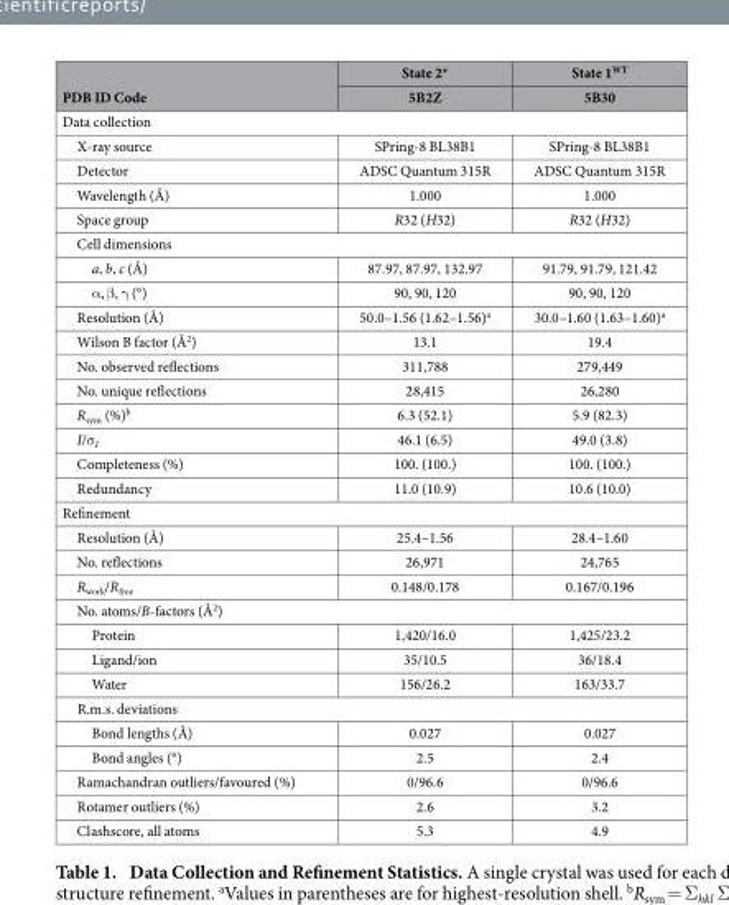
<table><thead><tr><td rowspan="2">PDB ID Code</td><td rowspan="2">State 2* 5B2Z</td><td rowspan="2">State 1<sup>WT</sup> 5B30</td></tr><tr></tr></thead><tbody><tr><td colspan="3">Data collection</td></tr><tr><td>X-ray source</td><td>SPring-8 BL38B1</td><td>SPring-8 BL38B1</td></tr><tr><td>Detector</td><td>ADSC Quantum 315R</td><td>ADSC Quantum 315R</td></tr><tr><td>Wavelength (Å)</td><td>1.000</td><td>1.000</td></tr><tr><td>Space group</td><td>R32 (H32)</td><td>R32 (H32)</td></tr><tr><td colspan="3">Cell dimensions</td></tr><tr><td>a, b, c (Å)</td><td>87.97, 87.97, 132.97</td><td>91.79, 91.79, 121.42</td></tr><tr><td>α , β , γ (°)</td><td>90, 90, 120</td><td>90, 90, 120</td></tr><tr><td>Resolution (Å)</td><td>50.0–1.56 (1.62–1.56)<sup>a</sup></td><td>30.0–1.60 (1.63–1.60)<sup>a</sup></td></tr><tr><td>Wilson B factor (Å<sup>2</sup>)</td><td>13.1</td><td>19.4</td></tr><tr><td>No. observed reflections</td><td>311,788</td><td>279,449</td></tr><tr><td>No. unique reflections</td><td>28,415</td><td>26,280</td></tr><tr><td>R<sub>sym</sub> (%)<sup>b</sup></td><td>6.3 (52.1)</td><td>5.9 (82.3)</td></tr><tr><td>I/σ <sub>I</sub></td><td>46.1 (6.5)</td><td>49.0 (3.8)</td></tr><tr><td>Completeness (%)</td><td>100. (100.)</td><td>100. (100.)</td></tr><tr><td>Redundancy</td><td>11.0 (10.9)</td><td>10.6 (10.0)</td></tr><tr><td colspan="3">Refinement</td></tr><tr><td>Resolution (Å)</td><td>25.4–1.56</td><td>28.4–1.60</td></tr><tr><td>No. reflections</td><td>26,971</td><td>24,765</td></tr><tr><td>R<sub>work</sub>/R<sub>free</sub></td><td>0.148/0.178</td><td>0.167/0.196</td></tr><tr><td colspan="3">No. atoms/B-factors (Å<sup>2</sup>)</td></tr><tr><td>Protein</td><td>1,420/16.0</td><td>1,425/23.2</td></tr><tr><td>Ligand/ion</td><td>35/10.5</td><td>36/18.4</td></tr><tr><td>Water</td><td>156/26.2</td><td>163/33.7</td></tr><tr><td colspan="3">R.m.s. deviations</td></tr><tr><td>Bond lengths (Å)</td><td>0.027</td><td>0.027</td></tr><tr><td>Bond angles (°)</td><td>2.5</td><td>2.4</td></tr><tr><td>Ramachandran outliers/favoured (%)</td><td>0/96.6</td><td>0/96.6</td></tr><tr><td>Rotamer outliers (%)</td><td>2.6</td><td>3.2</td></tr><tr><td>Clashscore, all atoms</td><td>5.3</td><td>4.9</td></tr></tbody></table>